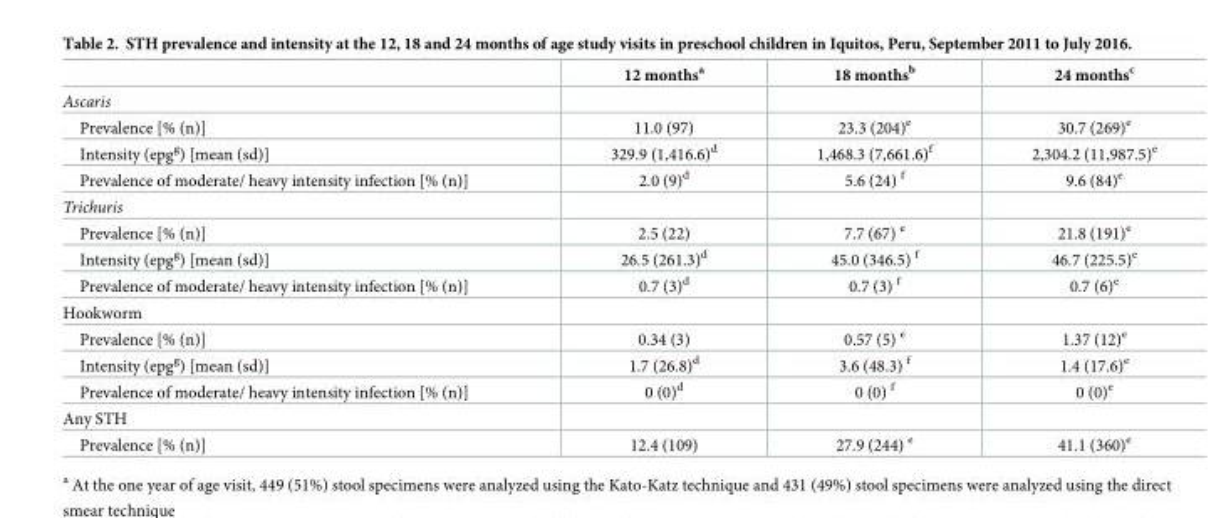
<table><thead><tr><td></td><td>12 months<sup>a</sup></td><td>18 months<sup>b</sup></td><td>24 months<sup>c</sup></td></tr></thead><tbody><tr><td colspan="4">Ascaris</td></tr><tr><td>Prevalence [% (n)]</td><td>11.0 (97)</td><td>23.3 (204)<sup>e</sup></td><td>30.7 (269)<sup>e</sup></td></tr><tr><td>Intensity (epg<sup>g</sup>) [mean (sd)]</td><td>329.9 (1,416.6)<sup>d</sup></td><td>1,468.3 (7,661.6)<sup>f</sup></td><td>2,304.2 (11,987.5)<sup>e</sup></td></tr><tr><td>Prevalence of moderate/ heavy intensity infection [% (n)]</td><td>2.0 (9)<sup>d</sup></td><td>5.6 (24) <sup>f</sup></td><td>9.6 (84)<sup>e</sup></td></tr><tr><td colspan="4">Trichuris</td></tr><tr><td>Prevalence [% (n)]</td><td>2.5 (22)</td><td>7.7 (67) <sup>e</sup></td><td>21.8 (191)<sup>e</sup></td></tr><tr><td>Intensity (epg<sup>g</sup>) [mean (sd)]</td><td>26.5 (261.3)<sup>d</sup></td><td>45.0 (346.5) <sup>f</sup></td><td>46.7 (225.5)<sup>e</sup></td></tr><tr><td>Prevalence of moderate/ heavy intensity infection [% (n)]</td><td>0.7 (3)<sup>d</sup></td><td>0.7 (3) <sup>f</sup></td><td>0.7 (6)<sup>e</sup></td></tr><tr><td colspan="4">Hookworm</td></tr><tr><td>Prevalence [% (n)]</td><td>0.34 (3)</td><td>0.57 (5) <sup>e</sup></td><td>1.37 (12)<sup>e</sup></td></tr><tr><td>Intensity (epg<sup>g</sup>) [mean (sd)]</td><td>1.7 (26.8)<sup>d</sup></td><td>3.6 (48.3) <sup>f</sup></td><td>1.4 (17.6)<sup>e</sup></td></tr><tr><td>Prevalence of moderate/ heavy intensity infection [% (n)]</td><td>0 (0)<sup>d</sup></td><td>0 (0) <sup>f</sup></td><td>0 (0)<sup>e</sup></td></tr><tr><td colspan="4">Any STH</td></tr><tr><td>Prevalence [% (n)]</td><td>12.4 (109)</td><td>27.9 (244) <sup>e</sup></td><td>41.1 (360)<sup>e</sup></td></tr></tbody></table>